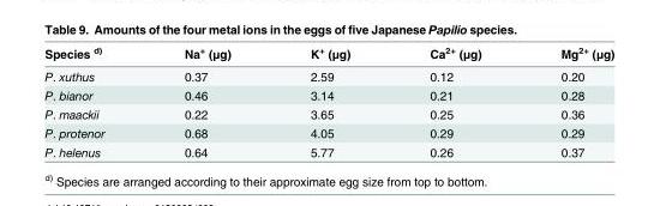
<table><thead><tr><td>Species <sup>d)</sup></td><td>Na<sup>+</sup> (μg)</td><td>K<sup>+</sup> (μg)</td><td>Ca<sup>2+</sup> (μg)</td><td>Mg<sup>2+</sup> (μg)</td></tr></thead><tbody><tr><td>P. xuthus</td><td>0.37</td><td>2.59</td><td>0.12</td><td>0.20</td></tr><tr><td>P. bianor</td><td>0.46</td><td>3.14</td><td>0.21</td><td>0.28</td></tr><tr><td>P. maackii</td><td>0.22</td><td>3.65</td><td>0.25</td><td>0.36</td></tr><tr><td>P. protenor</td><td>0.68</td><td>4.05</td><td>0.29</td><td>0.29</td></tr><tr><td>P. helenus</td><td>0.64</td><td>5.77</td><td>0.26</td><td>0.37</td></tr></tbody></table>